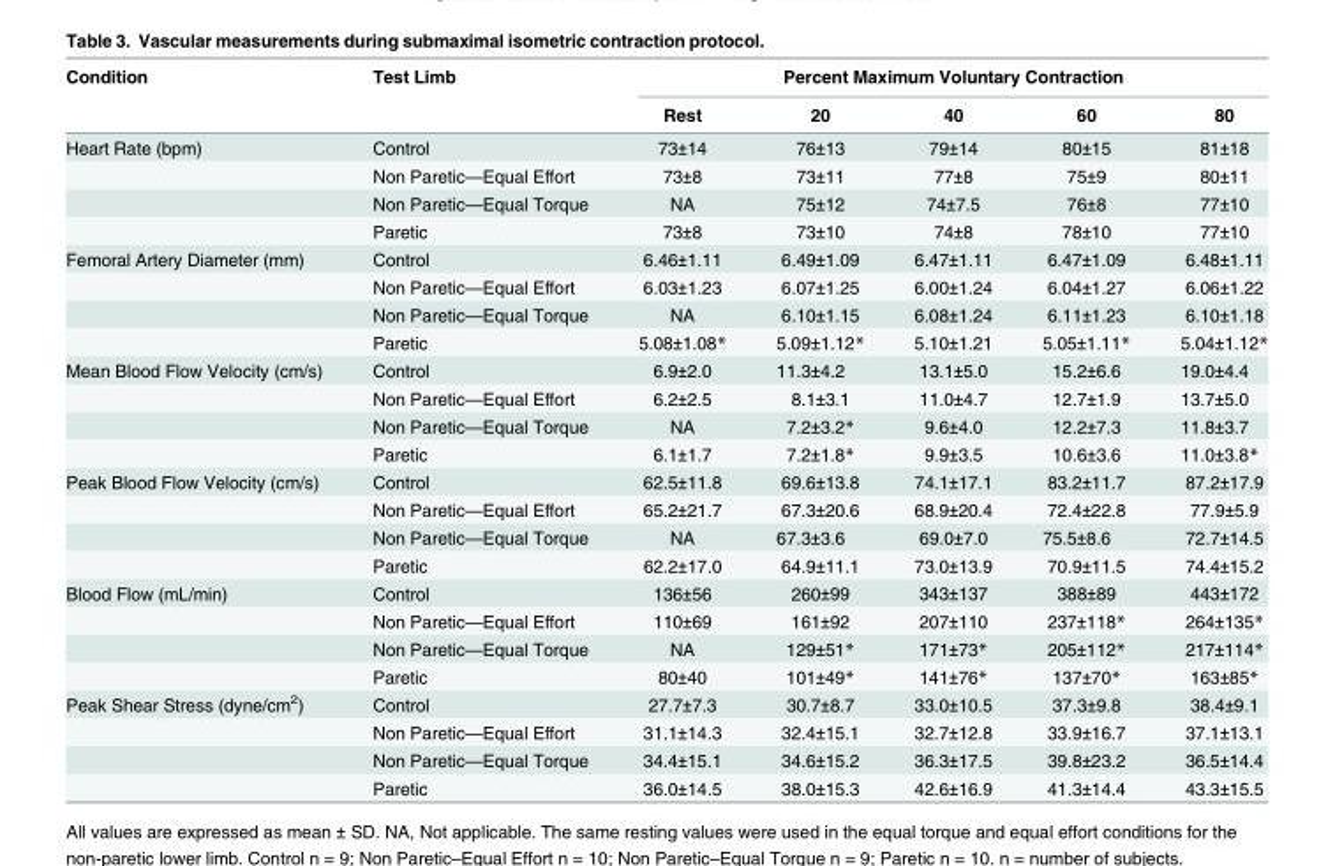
<table><thead><tr><td rowspan="2">Condition</td><td rowspan="2">Test Limb</td><td colspan="5">Percent Maximum Voluntary Contraction</td></tr><tr><td>Rest</td><td>20</td><td>40</td><td>60</td><td>80</td></tr></thead><tbody><tr><td rowspan="4">Heart Rate (bpm)</td><td>Control</td><td>73±14</td><td>76±13</td><td>79±14</td><td>80±15</td><td>81±18</td></tr><tr><td>Non Paretic—Equal Effort</td><td>73±8</td><td>73±11</td><td>77±8</td><td>75±9</td><td>80±11</td></tr><tr><td>Non Paretic—Equal Torque</td><td>NA</td><td>75±12</td><td>74±7.5</td><td>76±8</td><td>77±10</td></tr><tr><td>Paretic</td><td>73±8</td><td>73±10</td><td>74±8</td><td>78±10</td><td>77±10</td></tr><tr><td rowspan="4">Femoral Artery Diameter (mm)</td><td>Control</td><td>6.46±1.11</td><td>6.49±1.09</td><td>6.47±1.11</td><td>6.47±1.09</td><td>6.48±1.11</td></tr><tr><td>Non Paretic—Equal Effort</td><td>6.03±1.23</td><td>6.07±1.25</td><td>6.00±1.24</td><td>6.04±1.27</td><td>6.06±1.22</td></tr><tr><td>Non Paretic—Equal Torque</td><td>NA</td><td>6.10±1.15</td><td>6.08±1.24</td><td>6.11±1.23</td><td>6.10±1.18</td></tr><tr><td>Paretic</td><td>5.08±1.08*</td><td>5.09±1.12*</td><td>5.10±1.21</td><td>5.05±1.11*</td><td>5.04±1.12*</td></tr><tr><td rowspan="4">Mean Blood Flow Velocity (cm/s)</td><td>Control</td><td>6.9±2.0</td><td>11.3±4.2</td><td>13.1±5.0</td><td>15.2±6.6</td><td>19.0±4.4</td></tr><tr><td>Non Paretic—Equal Effort</td><td>6.2±2.5</td><td>8.1±3.1</td><td>11.0±4.7</td><td>12.7±1.9</td><td>13.7±5.0</td></tr><tr><td>Non Paretic—Equal Torque</td><td>NA</td><td>7.2±3.2*</td><td>9.6±4.0</td><td>12.2±7.3</td><td>11.8±3.7</td></tr><tr><td>Paretic</td><td>6.1±1.7</td><td>7.2±1.8*</td><td>9.9±3.5</td><td>10.6±3.6</td><td>11.0±3.8*</td></tr><tr><td rowspan="4">Peak Blood Flow Velocity (cm/s)</td><td>Control</td><td>62.5±11.8</td><td>69.6±13.8</td><td>74.1±17.1</td><td>83.2±11.7</td><td>87.2±17.9</td></tr><tr><td>Non Paretic—Equal Effort</td><td>65.2±21.7</td><td>67.3±20.6</td><td>68.9±20.4</td><td>72.4±22.8</td><td>77.9±5.9</td></tr><tr><td>Non Paretic—Equal Torque</td><td>NA</td><td>67.3±3.6</td><td>69.0±7.0</td><td>75.5±8.6</td><td>72.7±14.5</td></tr><tr><td>Paretic</td><td>62.2±17.0</td><td>64.9±11.1</td><td>73.0±13.9</td><td>70.9±11.5</td><td>74.4±15.2</td></tr><tr><td rowspan="4">Blood Flow (mL/min)</td><td>Control</td><td>136±56</td><td>260±99</td><td>343±137</td><td>388±89</td><td>443±172</td></tr><tr><td>Non Paretic—Equal Effort</td><td>110±69</td><td>161±92</td><td>207±110</td><td>237±118*</td><td>264±135*</td></tr><tr><td>Non Paretic—Equal Torque</td><td>NA</td><td>129±51*</td><td>171±73*</td><td>205±112*</td><td>217±114*</td></tr><tr><td>Paretic</td><td>80±40</td><td>101±49*</td><td>141±76*</td><td>137±70*</td><td>163±85*</td></tr><tr><td rowspan="4">Peak Shear Stress (dyne/cm<sup>2</sup>)</td><td>Control</td><td>27.7±7.3</td><td>30.7±8.7</td><td>33.0±10.5</td><td>37.3±9.8</td><td>38.4±9.1</td></tr><tr><td>Non Paretic—Equal Effort</td><td>31.1±14.3</td><td>32.4±15.1</td><td>32.7±12.8</td><td>33.9±16.7</td><td>37.1±13.1</td></tr><tr><td>Non Paretic—Equal Torque</td><td>34.4±15.1</td><td>34.6±15.2</td><td>36.3±17.5</td><td>39.8±23.2</td><td>36.5±14.4</td></tr><tr><td>Paretic</td><td>36.0±14.5</td><td>38.0±15.3</td><td>42.6±16.9</td><td>41.3±14.4</td><td>43.3±15.5</td></tr></tbody></table>